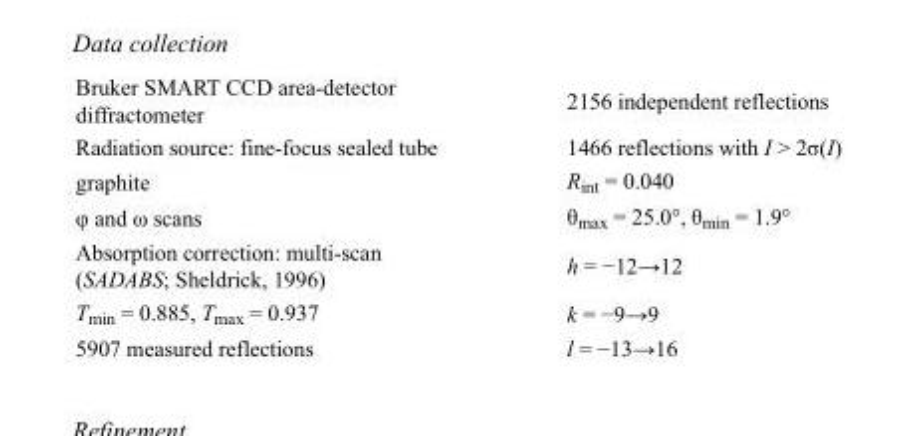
<table><tbody><tr><td>Bruker SMART CCD area-detector diffractometer</td><td>2156 independent reflections</td></tr><tr><td>Radiation source: fine-focus sealed tube</td><td>1466 reflections with I &gt; 2σ(I)</td></tr><tr><td>graphite</td><td>R<sub>int</sub> = 0.040</td></tr><tr><td>φ and ω scans</td><td>θ<sub>max</sub> = 25.0°, θ<sub>min</sub> = 1.9°</td></tr><tr><td>Absorption correction: multi-scan (SADABS; Sheldrick, 1996)</td><td>h = −12→12</td></tr><tr><td>T<sub>min</sub> = 0.885, T<sub>max</sub> = 0.937</td><td>k = −9→9</td></tr><tr><td>5907 measured reflections</td><td>l = −13→16</td></tr></tbody></table>